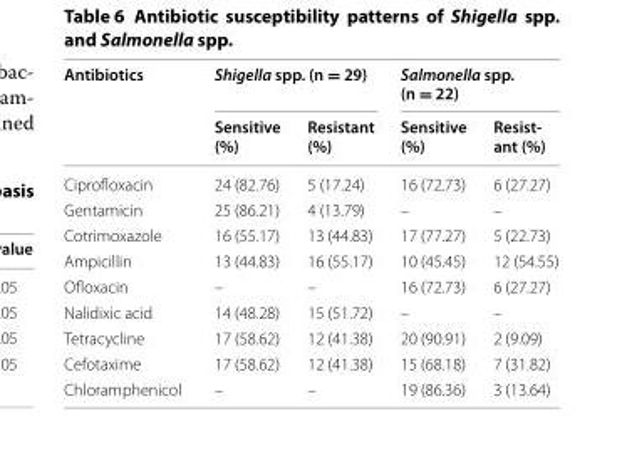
<table><thead><tr><td rowspan="2">Antibiotics</td><td colspan="2">Shigella spp. (n = 29)</td><td colspan="2">Salmonella spp. (n = 22)</td></tr><tr><td>Sensitive (%)</td><td>Resistant (%)</td><td>Sensitive (%)</td><td>Resist- ant (%)</td></tr></thead><tbody><tr><td>Ciprofloxacin</td><td>24 (82.76)</td><td>5 (17.24)</td><td>16 (72.73)</td><td>6 (27.27)</td></tr><tr><td>Gentamicin</td><td>25 (86.21)</td><td>4 (13.79)</td><td>–</td><td>–</td></tr><tr><td>Cotrimoxazole</td><td>16 (55.17)</td><td>13 (44.83)</td><td>17 (77.27)</td><td>5 (22.73)</td></tr><tr><td>Ampicillin</td><td>13 (44.83)</td><td>16 (55.17)</td><td>10 (45.45)</td><td>12 (54.55)</td></tr><tr><td>Ofloxacin</td><td>–</td><td>–</td><td>16 (72.73)</td><td>6 (27.27)</td></tr><tr><td>Nalidixic acid</td><td>14 (48.28)</td><td>15 (51.72)</td><td>–</td><td>–</td></tr><tr><td>Tetracycline</td><td>17 (58.62)</td><td>12 (41.38)</td><td>20 (90.91)</td><td>2 (9.09)</td></tr><tr><td>Cefotaxime</td><td>17 (58.62)</td><td>12 (41.38)</td><td>15 (68.18)</td><td>7 (31.82)</td></tr><tr><td>Chloramphenicol</td><td>–</td><td>–</td><td>19 (86.36)</td><td>3 (13.64)</td></tr></tbody></table>